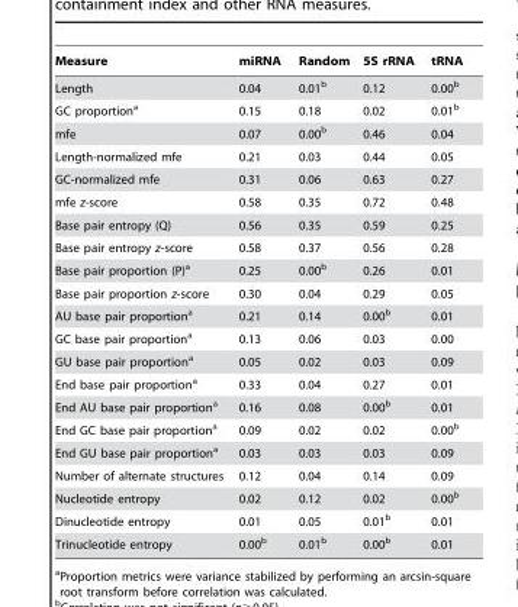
<table><thead><tr><td>Measure</td><td>miRNA</td><td>Random</td><td>5S rRNA</td><td>tRNA</td></tr></thead><tbody><tr><td>Length</td><td>0.04</td><td>0.01<sup>b</sup></td><td>0.12</td><td>0.00<sup>b</sup></td></tr><tr><td>GC proportion<sup>a</sup></td><td>0.15</td><td>0.18</td><td>0.02</td><td>0.01<sup>b</sup></td></tr><tr><td>mfe</td><td>0.07</td><td>0.00<sup>b</sup></td><td>0.46</td><td>0.04</td></tr><tr><td>Length-normalized mfe</td><td>0.21</td><td>0.03</td><td>0.44</td><td>0.05</td></tr><tr><td>GC-normalized mfe</td><td>0.31</td><td>0.06</td><td>0.63</td><td>0.27</td></tr><tr><td>mfe z-score</td><td>0.58</td><td>0.35</td><td>0.72</td><td>0.48</td></tr><tr><td>Base pair entropy (Q)</td><td>0.56</td><td>0.35</td><td>0.59</td><td>0.25</td></tr><tr><td>Base pair entropy z-score</td><td>0.58</td><td>0.37</td><td>0.56</td><td>0.28</td></tr><tr><td>Base pair proportion (P)<sup>a</sup></td><td>0.25</td><td>0.00<sup>b</sup></td><td>0.26</td><td>0.01</td></tr><tr><td>Base pair proportion z-score</td><td>0.30</td><td>0.04</td><td>0.29</td><td>0.05</td></tr><tr><td>AU base pair proportion<sup>a</sup></td><td>0.21</td><td>0.14</td><td>0.00<sup>b</sup></td><td>0.01</td></tr><tr><td>GC base pair proportion<sup>a</sup></td><td>0.13</td><td>0.06</td><td>0.03</td><td>0.00</td></tr><tr><td>GU base pair proportion<sup>a</sup></td><td>0.05</td><td>0.02</td><td>0.03</td><td>0.09</td></tr><tr><td>End base pair proportion<sup>a</sup></td><td>0.33</td><td>0.04</td><td>0.27</td><td>0.01</td></tr><tr><td>End AU base pair proportion<sup>a</sup></td><td>0.16</td><td>0.08</td><td>0.00<sup>b</sup></td><td>0.01</td></tr><tr><td>End GC base pair proportion<sup>a</sup></td><td>0.09</td><td>0.02</td><td>0.02</td><td>0.00<sup>b</sup></td></tr><tr><td>End GU base pair proportion<sup>a</sup></td><td>0.03</td><td>0.03</td><td>0.03</td><td>0.09</td></tr><tr><td>Number of alternate structures</td><td>0.12</td><td>0.04</td><td>0.14</td><td>0.09</td></tr><tr><td>Nucleotide entropy</td><td>0.02</td><td>0.12</td><td>0.02</td><td>0.00<sup>b</sup></td></tr><tr><td>Dinucleotide entropy</td><td>0.01</td><td>0.05</td><td>0.01<sup>b</sup></td><td>0.01</td></tr><tr><td>Trinucleotide entropy</td><td>0.00<sup>b</sup></td><td>0.01<sup>b</sup></td><td>0.00<sup>b</sup></td><td>0.01</td></tr></tbody></table>